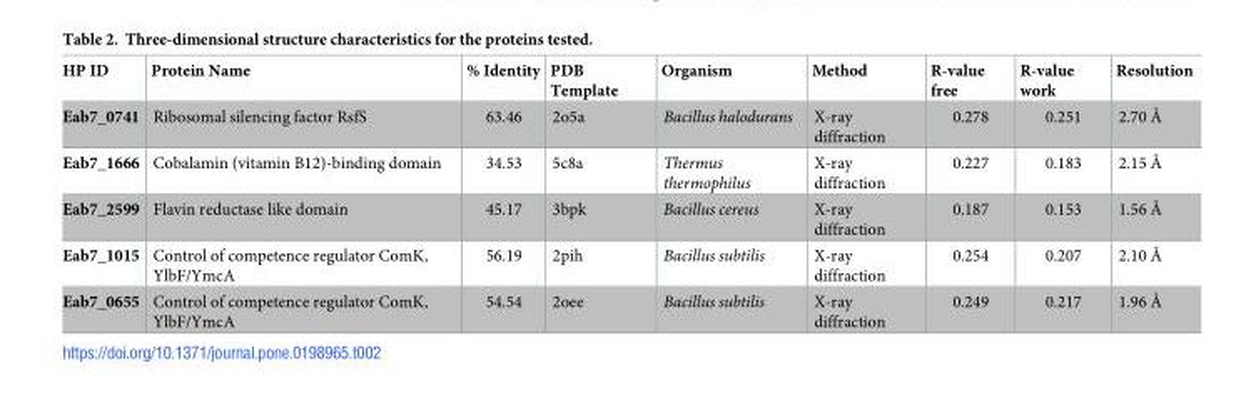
<table><thead><tr><td>HP ID</td><td>Protein Name</td><td>% Identity</td><td>PDB Template</td><td>Organism</td><td>Method</td><td>R-value free</td><td>R-value work</td><td>Resolution</td></tr></thead><tbody><tr><td>Eab7_0741</td><td>Ribosomal silencing factor RsfS</td><td>63.46</td><td>2o5a</td><td>Bacillus halodurans</td><td>X-ray diffraction</td><td>0.278</td><td>0.251</td><td>2.70 Å</td></tr><tr><td>Eab7_1666</td><td>Cobalamin (vitamin B12)-binding domain</td><td>34.53</td><td>5c8a</td><td>Thermus thermophilus</td><td>X-ray diffraction</td><td>0.227</td><td>0.183</td><td>2.15 Å</td></tr><tr><td>Eab7_2599</td><td>Flavin reductase like domain</td><td>45.17</td><td>3bpk</td><td>Bacillus cereus</td><td>X-ray diffraction</td><td>0.187</td><td>0.153</td><td>1.56 Å</td></tr><tr><td>Eab7_1015</td><td>Control of competence regulator ComK, YlbF/YmcA</td><td>56.19</td><td>2pih</td><td>Bacillus subtilis</td><td>X-ray diffraction</td><td>0.254</td><td>0.207</td><td>2.10 Å</td></tr><tr><td>Eab7_0655</td><td>Control of competence regulator ComK, YlbF/YmcA</td><td>54.54</td><td>2oee</td><td>Bacillus subtilis</td><td>X-ray diffraction</td><td>0.249</td><td>0.217</td><td>1.96 Å</td></tr></tbody></table>